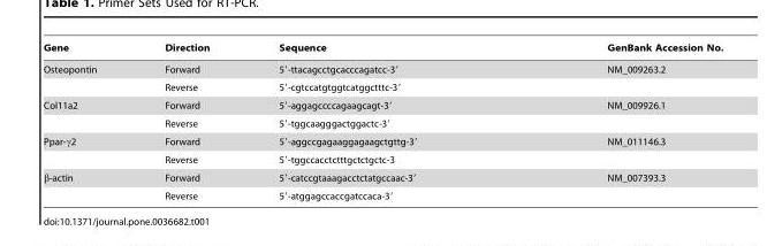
<table><thead><tr><td>Gene</td><td>Direction</td><td>Sequence</td><td>GenBank Accession No.</td></tr></thead><tbody><tr><td rowspan="2">Osteopontin</td><td>Forward</td><td>5′-ttacagcctgcacccagatcc-3′</td><td>NM_009263.2</td></tr><tr><td>Reverse</td><td>5′-cgtccatgtggtcatggctttc-3′</td><td></td></tr><tr><td rowspan="2">Col11a2</td><td>Forward</td><td>5′-aggagccccagaagcagt-3′</td><td>NM_009926.1</td></tr><tr><td>Reverse</td><td>5′-tggcaagggactggactc-3′</td><td></td></tr><tr><td rowspan="2">Ppar-γ2</td><td>Forward</td><td>5′-aggccgagaaggagaagctgttg-3′</td><td>NM_011146.3</td></tr><tr><td>Reverse</td><td>5′-tggccacctctttgctctgctc-3</td><td></td></tr><tr><td rowspan="2">β-actin</td><td>Forward</td><td>5′-catccgtaaagacctctatgccaac-3′</td><td>NM_007393.3</td></tr><tr><td>Reverse</td><td>5′-atggagccaccgatccaca-3′</td><td></td></tr></tbody></table>